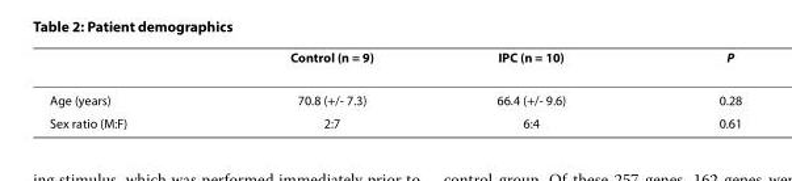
<table><thead><tr><td></td><td>Control (n = 9)</td><td>IPC (n = 10)</td><td>P</td></tr></thead><tbody><tr><td>Age (years)</td><td>70.8 (+/- 7.3)</td><td>66.4 (+/- 9.6)</td><td>0.28</td></tr><tr><td>Sex ratio (M:F)</td><td>2:7</td><td>6:4</td><td>0.61</td></tr></tbody></table>